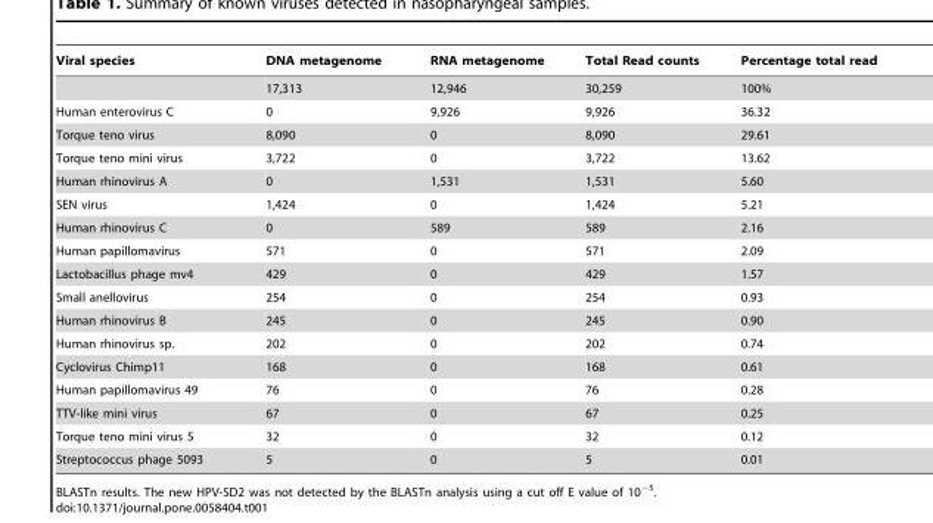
<table><thead><tr><td>Viral species</td><td>DNA metagenome</td><td>RNA metagenome</td><td>Total Read counts</td><td>Percentage total read</td></tr></thead><tbody><tr><td></td><td>17,313</td><td>12,946</td><td>30,259</td><td>100%</td></tr><tr><td>Human enterovirus C</td><td>0</td><td>9,926</td><td>9,926</td><td>36.32</td></tr><tr><td>Torque teno virus</td><td>8,090</td><td>0</td><td>8,090</td><td>29.61</td></tr><tr><td>Torque teno mini virus</td><td>3,722</td><td>0</td><td>3,722</td><td>13.62</td></tr><tr><td>Human rhinovirus A</td><td>0</td><td>1,531</td><td>1,531</td><td>5.60</td></tr><tr><td>SEN virus</td><td>1,424</td><td>0</td><td>1,424</td><td>5.21</td></tr><tr><td>Human rhinovirus C</td><td>0</td><td>589</td><td>589</td><td>2.16</td></tr><tr><td>Human papillomavirus</td><td>571</td><td>0</td><td>571</td><td>2.09</td></tr><tr><td>Lactobacillus phage mv4</td><td>429</td><td>0</td><td>429</td><td>1.57</td></tr><tr><td>Small anellovirus</td><td>254</td><td>0</td><td>254</td><td>0.93</td></tr><tr><td>Human rhinovirus B</td><td>245</td><td>0</td><td>245</td><td>0.90</td></tr><tr><td>Human rhinovirus sp.</td><td>202</td><td>0</td><td>202</td><td>0.74</td></tr><tr><td>Cyclovirus Chimp11</td><td>168</td><td>0</td><td>168</td><td>0.61</td></tr><tr><td>Human papillomavirus 49</td><td>76</td><td>0</td><td>76</td><td>0.28</td></tr><tr><td>TTV-like mini virus</td><td>67</td><td>0</td><td>67</td><td>0.25</td></tr><tr><td>Torque teno mini virus 5</td><td>32</td><td>0</td><td>32</td><td>0.12</td></tr><tr><td>Streptococcus phage 5093</td><td>5</td><td>0</td><td>5</td><td>0.01</td></tr></tbody></table>